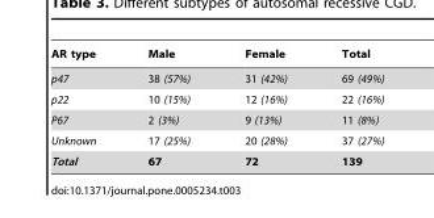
<table><thead><tr><td>AR type</td><td>Male</td><td>Female</td><td>Total</td></tr></thead><tbody><tr><td>p47</td><td>38 (57%)</td><td>31 (42%)</td><td>69 (49%)</td></tr><tr><td>p22</td><td>10 (15%)</td><td>12 (16%)</td><td>22 (16%)</td></tr><tr><td>P67</td><td>2 (3%)</td><td>9 (13%)</td><td>11 (8%)</td></tr><tr><td>Unknown</td><td>17 (25%)</td><td>20 (28%)</td><td>37 (27%)</td></tr><tr><td>Total</td><td>67</td><td>72</td><td>139</td></tr></tbody></table>